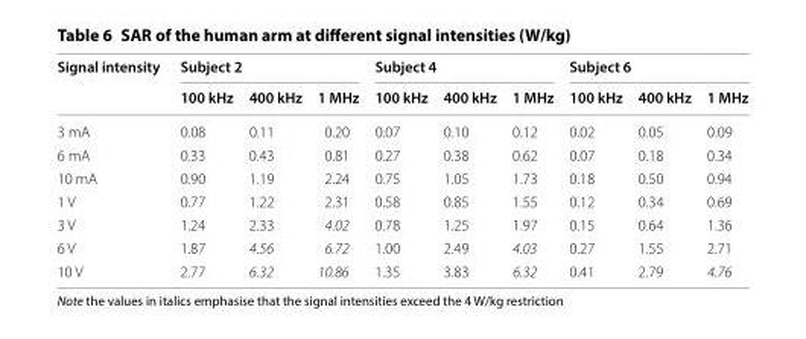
<table><thead><tr><td rowspan="2">Signal intensity</td><td colspan="3">Subject 2</td><td colspan="3">Subject 4</td><td colspan="3">Subject 6</td></tr><tr><td>100 kHz</td><td>400 kHz</td><td>1 MHz</td><td>100 kHz</td><td>400 kHz</td><td>1 MHz</td><td>100 kHz</td><td>400 kHz</td><td>1 MHz</td></tr></thead><tbody><tr><td>3 mA</td><td>0.08</td><td>0.11</td><td>0.20</td><td>0.07</td><td>0.10</td><td>0.12</td><td>0.02</td><td>0.05</td><td>0.09</td></tr><tr><td>6 mA</td><td>0.33</td><td>0.43</td><td>0.81</td><td>0.27</td><td>0.38</td><td>0.62</td><td>0.07</td><td>0.18</td><td>0.34</td></tr><tr><td>10 mA</td><td>0.90</td><td>1.19</td><td>2.24</td><td>0.75</td><td>1.05</td><td>1.73</td><td>0.18</td><td>0.50</td><td>0.94</td></tr><tr><td>1 V</td><td>0.77</td><td>1.22</td><td>2.31</td><td>0.58</td><td>0.85</td><td>1.55</td><td>0.12</td><td>0.34</td><td>0.69</td></tr><tr><td>3 V</td><td>1.24</td><td>2.33</td><td>4.02</td><td>0.78</td><td>1.25</td><td>1.97</td><td>0.15</td><td>0.64</td><td>1.36</td></tr><tr><td>6 V</td><td>1.87</td><td>4.56</td><td>6.72</td><td>1.00</td><td>2.49</td><td>4.03</td><td>0.27</td><td>1.55</td><td>2.71</td></tr><tr><td>10 V</td><td>2.77</td><td>6.32</td><td>10.86</td><td>1.35</td><td>3.83</td><td>6.32</td><td>0.41</td><td>2.79</td><td>4.76</td></tr></tbody></table>